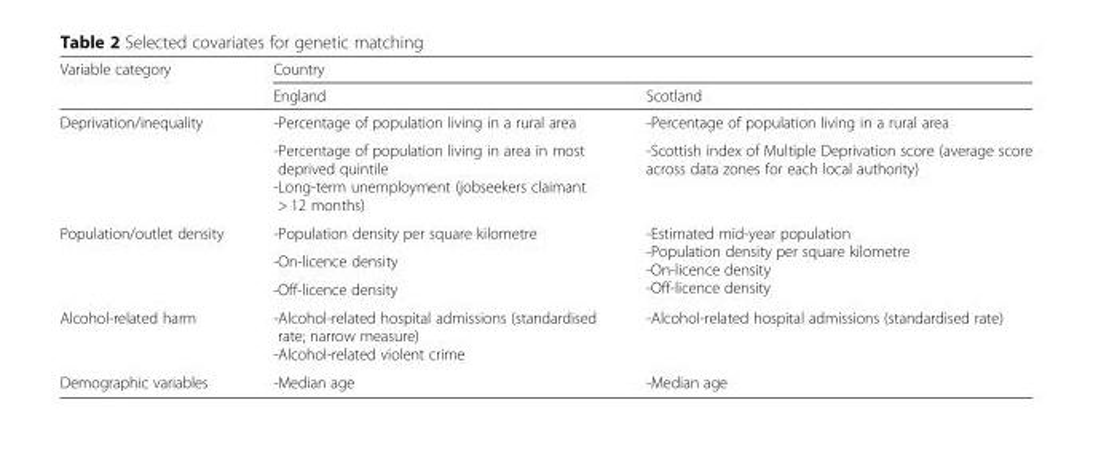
<table><thead><tr><td rowspan="2">Variable category</td><td colspan="2">Country</td></tr><tr><td>England</td><td>Scotland</td></tr></thead><tbody><tr><td rowspan="2">Deprivation/inequality</td><td>-Percentage of population living in a rural area</td><td>-Percentage of population living in a rural area</td></tr><tr><td>-Percentage of population living in area in most deprived quintile -Long-term unemployment (jobseekers claimant &gt; 12 months)</td><td>-Scottish index of Multiple Deprivation score (average score across data zones for each local authority)</td></tr><tr><td rowspan="3">Population/outlet density</td><td>-Population density per square kilometre</td><td rowspan="3">-Estimated mid-year population -Population density per square kilometre -On-licence density -Off-licence density</td></tr><tr><td>-On-licence density</td></tr><tr><td>-Off-licence density</td></tr><tr><td>Alcohol-related harm</td><td>-Alcohol-related hospital admissions (standardised rate; narrow measure) -Alcohol-related violent crime</td><td>-Alcohol-related hospital admissions (standardised rate)</td></tr><tr><td>Demographic variables</td><td>-Median age</td><td>-Median age</td></tr></tbody></table>